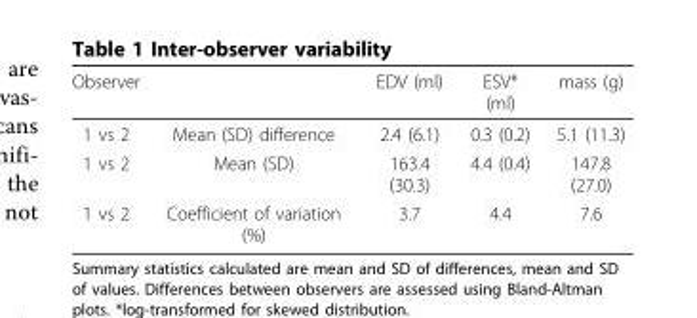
<table><thead><tr><td>Observer</td><td></td><td>EDV (ml)</td><td>ESV* (ml)</td><td>mass (g)</td></tr></thead><tbody><tr><td>1 vs 2</td><td>Mean (SD) difference</td><td>2.4 (6.1)</td><td>0.3 (0.2)</td><td>5.1 (11.3)</td></tr><tr><td>1 vs 2</td><td>Mean (SD)</td><td>163.4 (30.3)</td><td>4.4 (0.4)</td><td>147.8 (27.0)</td></tr><tr><td>1 vs 2</td><td>Coefficient of variation (%)</td><td>3.7</td><td>4.4</td><td>7.6</td></tr></tbody></table>